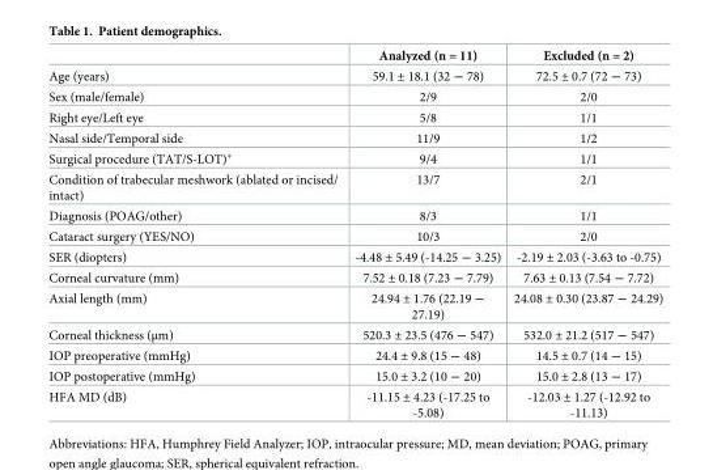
<table><thead><tr><td></td><td>Analyzed (n = 11)</td><td>Excluded (n = 2)</td></tr></thead><tbody><tr><td>Age (years)</td><td>59.1 ± 18.1 (32 ― 78)</td><td>72.5 ± 0.7 (72 ― 73)</td></tr><tr><td>Sex (male/female)</td><td>2/9</td><td>2/0</td></tr><tr><td>Right eye/Left eye</td><td>5/8</td><td>1/1</td></tr><tr><td>Nasal side/Temporal side</td><td>11/9</td><td>1/2</td></tr><tr><td>Surgical procedure (TAT/S-LOT)*</td><td>9/4</td><td>1/1</td></tr><tr><td>Condition of trabecular meshwork (ablated or incised/ intact)</td><td>13/7</td><td>2/1</td></tr><tr><td>Diagnosis (POAG/other)</td><td>8/3</td><td>1/1</td></tr><tr><td>Cataract surgery (YES/NO)</td><td>10/3</td><td>2/0</td></tr><tr><td>SER (diopters)</td><td>-4.48 ± 5.49 (-14.25 ― 3.25)</td><td>-2.19 ± 2.03 (-3.63 to -0.75)</td></tr><tr><td>Corneal curvature (mm)</td><td>7.52 ± 0.18 (7.23 ― 7.79)</td><td>7.63 ± 0.13 (7.54 ― 7.72)</td></tr><tr><td>Axial length (mm)</td><td>24.94 ± 1.76 (22.19 ― 27.19)</td><td>24.08 ± 0.30 (23.87 ― 24.29)</td></tr><tr><td>Corneal thickness (μm)</td><td>520.3 ± 23.5 (476 ― 547)</td><td>532.0 ± 21.2 (517 ― 547)</td></tr><tr><td>IOP preoperative (mmHg)</td><td>24.4 ± 9.8 (15 ― 48)</td><td>14.5 ± 0.7 (14 ― 15)</td></tr><tr><td>IOP postoperative (mmHg)</td><td>15.0 ± 3.2 (10 ― 20)</td><td>15.0 ± 2.8 (13 ― 17)</td></tr><tr><td>HFA MD (dB)</td><td>-11.15 ± 4.23 (-17.25 to -5.08)</td><td>-12.03 ± 1.27 (-12.92 to -11.13)</td></tr></tbody></table>